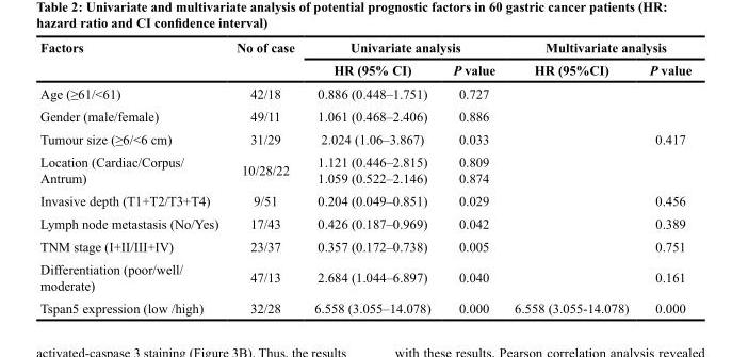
<table><thead><tr><td rowspan="2">Factors</td><td rowspan="2">No of case</td><td colspan="2">Univariate analysis</td><td colspan="2">Multivariate analysis</td></tr><tr><td>HR (95% CI)</td><td>P value</td><td>HR (95%CI)</td><td>P value</td></tr></thead><tbody><tr><td>Age (≥61/&lt;61)</td><td>42/18</td><td>0.886 (0.448–1.751)</td><td>0.727</td><td></td><td></td></tr><tr><td>Gender (male/female)</td><td>49/11</td><td>1.061 (0.468–2.406)</td><td>0.886</td><td></td><td></td></tr><tr><td>Tumour size (≥6/&lt;6 cm)</td><td>31/29</td><td>2.024 (1.06–3.867)</td><td>0.033</td><td></td><td>0.417</td></tr><tr><td>Location (Cardiac/Corpus/ Antrum)</td><td>10/28/22</td><td>1.121 (0.446–2.815) 1.059 (0.522–2.146)</td><td>0.809 0.874</td><td></td><td></td></tr><tr><td>Invasive depth (T1+T2/T3+T4)</td><td>9/51</td><td>0.204 (0.049–0.851)</td><td>0.029</td><td></td><td>0.456</td></tr><tr><td>Lymph node metastasis (No/Yes)</td><td>17/43</td><td>0.426 (0.187–0.969)</td><td>0.042</td><td></td><td>0.389</td></tr><tr><td>TNM stage (I+II/III+IV)</td><td>23/37</td><td>0.357 (0.172–0.738)</td><td>0.005</td><td></td><td>0.751</td></tr><tr><td>Differentiation (poor/well/ moderate)</td><td>47/13</td><td>2.684 (1.044–6.897)</td><td>0.040</td><td></td><td>0.161</td></tr><tr><td>Tspan5 expression (low /high)</td><td>32/28</td><td>6.558 (3.055–14.078)</td><td>0.000</td><td>6.558 (3.055-14.078)</td><td>0.000</td></tr></tbody></table>